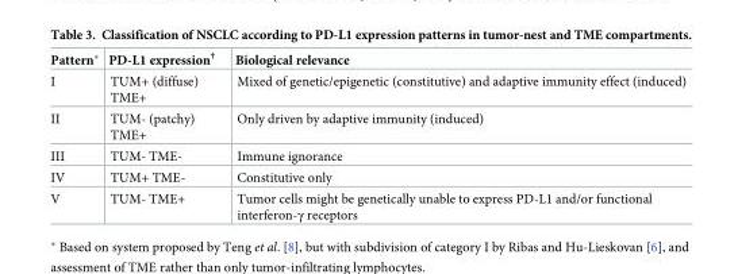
<table><thead><tr><td>Pattern*</td><td>PD-L1 expression<sup>†</sup></td><td>Biological relevance</td></tr></thead><tbody><tr><td>I</td><td>TUM+ (diffuse) TME+</td><td>Mixed of genetic/epigenetic (constitutive) and adaptive immunity effect (induced)</td></tr><tr><td>II</td><td>TUM- (patchy) TME+</td><td>Only driven by adaptive immunity (induced)</td></tr><tr><td>III</td><td>TUM- TME-</td><td>Immune ignorance</td></tr><tr><td>IV</td><td>TUM+ TME-</td><td>Constitutive only</td></tr><tr><td>V</td><td>TUM- TME+</td><td>Tumor cells might be genetically unable to express PD-L1 and/or functional interferon-γ receptors</td></tr></tbody></table>